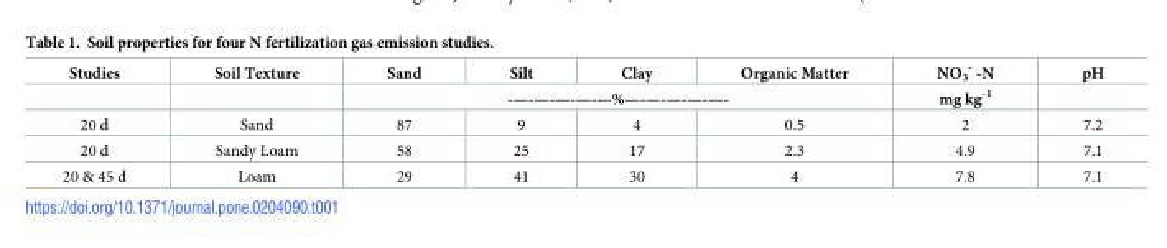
<table><thead><tr><td rowspan="2">Studies</td><td rowspan="2">Soil Texture</td><td>Sand</td><td>Silt</td><td>Clay</td><td>Organic Matter</td><td rowspan="2">NO<sub>3</sub> <sup>-</sup> -N mg kg<sup>-1</sup></td><td rowspan="2">pH</td></tr><tr><td colspan="4">-—-—-—-—-—%—-—-—-—-—-</td></tr></thead><tbody><tr><td>20 d</td><td>Sand</td><td>87</td><td>9</td><td>4</td><td>0.5</td><td>2</td><td>7.2</td></tr><tr><td>20 d</td><td>Sandy Loam</td><td>58</td><td>25</td><td>17</td><td>2.3</td><td>4.9</td><td>7.1</td></tr><tr><td>20 &amp; 45 d</td><td>Loam</td><td>29</td><td>41</td><td>30</td><td>4</td><td>7.8</td><td>7.1</td></tr></tbody></table>